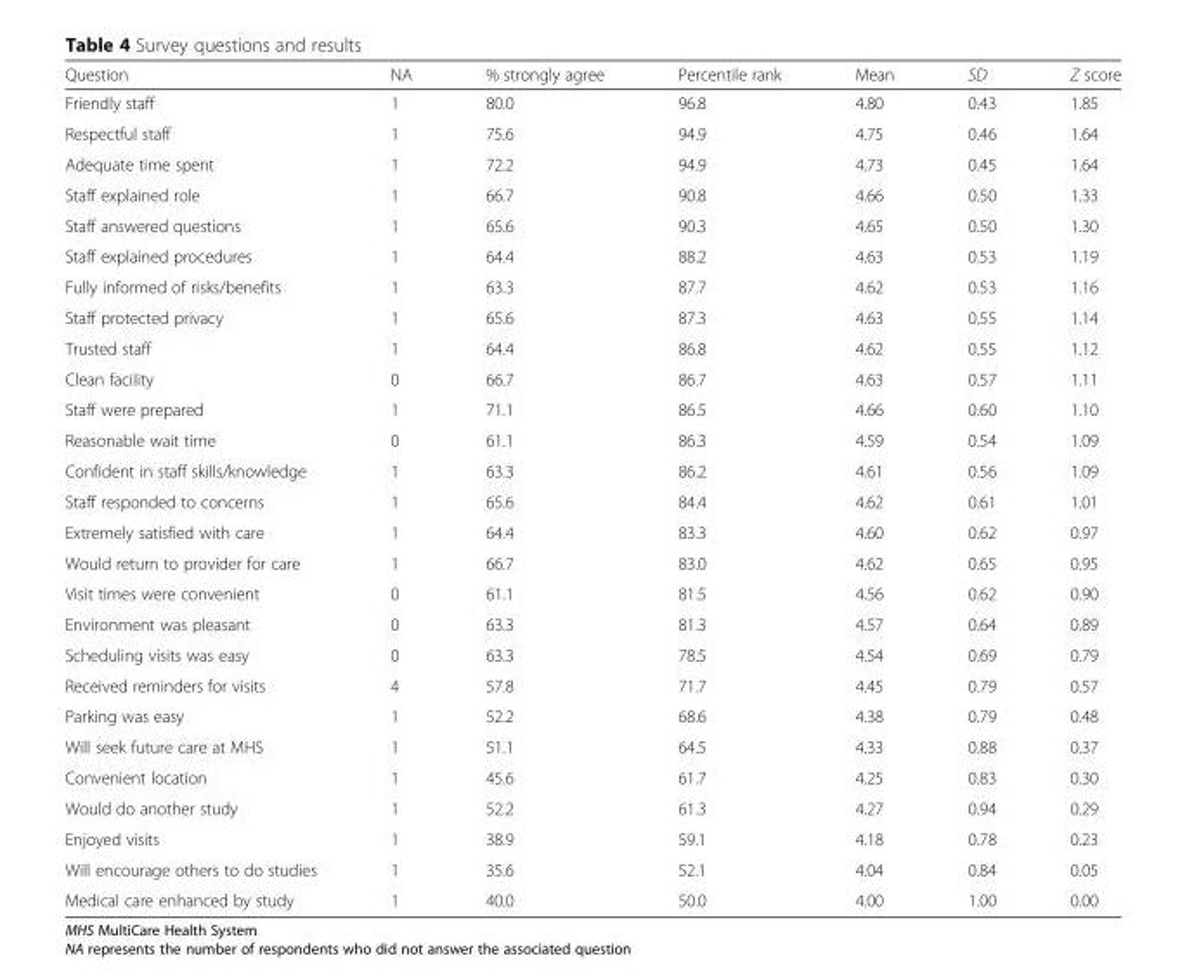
<table><thead><tr><td>Question</td><td>NA</td><td>% strongly agree</td><td>Percentile rank</td><td>Mean</td><td>SD</td><td>Z score</td></tr></thead><tbody><tr><td>Friendly staff</td><td>1</td><td>80.0</td><td>96.8</td><td>4.80</td><td>0.43</td><td>1.85</td></tr><tr><td>Respectful staff</td><td>1</td><td>75.6</td><td>94.9</td><td>4.75</td><td>0.46</td><td>1.64</td></tr><tr><td>Adequate time spent</td><td>1</td><td>72.2</td><td>94.9</td><td>4.73</td><td>0.45</td><td>1.64</td></tr><tr><td>Staff explained role</td><td>1</td><td>66.7</td><td>90.8</td><td>4.66</td><td>0.50</td><td>1.33</td></tr><tr><td>Staff answered questions</td><td>1</td><td>65.6</td><td>90.3</td><td>4.65</td><td>0.50</td><td>1.30</td></tr><tr><td>Staff explained procedures</td><td>1</td><td>64.4</td><td>88.2</td><td>4.63</td><td>0.53</td><td>1.19</td></tr><tr><td>Fully informed of risks/benefits</td><td>1</td><td>63.3</td><td>87.7</td><td>4.62</td><td>0.53</td><td>1.16</td></tr><tr><td>Staff protected privacy</td><td>1</td><td>65.6</td><td>87.3</td><td>4.63</td><td>0.55</td><td>1.14</td></tr><tr><td>Trusted staff</td><td>1</td><td>64.4</td><td>86.8</td><td>4.62</td><td>0.55</td><td>1.12</td></tr><tr><td>Clean facility</td><td>0</td><td>66.7</td><td>86.7</td><td>4.63</td><td>0.57</td><td>1.11</td></tr><tr><td>Staff were prepared</td><td>1</td><td>71.1</td><td>86.5</td><td>4.66</td><td>0.60</td><td>1.10</td></tr><tr><td>Reasonable wait time</td><td>0</td><td>61.1</td><td>86.3</td><td>4.59</td><td>0.54</td><td>1.09</td></tr><tr><td>Confident in staff skills/knowledge</td><td>1</td><td>63.3</td><td>86.2</td><td>4.61</td><td>0.56</td><td>1.09</td></tr><tr><td>Staff responded to concerns</td><td>1</td><td>65.6</td><td>84.4</td><td>4.62</td><td>0.61</td><td>1.01</td></tr><tr><td>Extremely satisfied with care</td><td>1</td><td>64.4</td><td>83.3</td><td>4.60</td><td>0.62</td><td>0.97</td></tr><tr><td>Would return to provider for care</td><td>1</td><td>66.7</td><td>83.0</td><td>4.62</td><td>0.65</td><td>0.95</td></tr><tr><td>Visit times were convenient</td><td>0</td><td>61.1</td><td>81.5</td><td>4.56</td><td>0.62</td><td>0.90</td></tr><tr><td>Environment was pleasant</td><td>0</td><td>63.3</td><td>81.3</td><td>4.57</td><td>0.64</td><td>0.89</td></tr><tr><td>Scheduling visits was easy</td><td>0</td><td>63.3</td><td>78.5</td><td>4.54</td><td>0.69</td><td>0.79</td></tr><tr><td>Received reminders for visits</td><td>4</td><td>57.8</td><td>71.7</td><td>4.45</td><td>0.79</td><td>0.57</td></tr><tr><td>Parking was easy</td><td>1</td><td>52.2</td><td>68.6</td><td>4.38</td><td>0.79</td><td>0.48</td></tr><tr><td>Will seek future care at MHS</td><td>1</td><td>51.1</td><td>64.5</td><td>4.33</td><td>0.88</td><td>0.37</td></tr><tr><td>Convenient location</td><td>1</td><td>45.6</td><td>61.7</td><td>4.25</td><td>0.83</td><td>0.30</td></tr><tr><td>Would do another study</td><td>1</td><td>52.2</td><td>61.3</td><td>4.27</td><td>0.94</td><td>0.29</td></tr><tr><td>Enjoyed visits</td><td>1</td><td>38.9</td><td>59.1</td><td>4.18</td><td>0.78</td><td>0.23</td></tr><tr><td>Will encourage others to do studies</td><td>1</td><td>35.6</td><td>52.1</td><td>4.04</td><td>0.84</td><td>0.05</td></tr><tr><td>Medical care enhanced by study</td><td>1</td><td>40.0</td><td>50.0</td><td>4.00</td><td>1.00</td><td>0.00</td></tr></tbody></table>